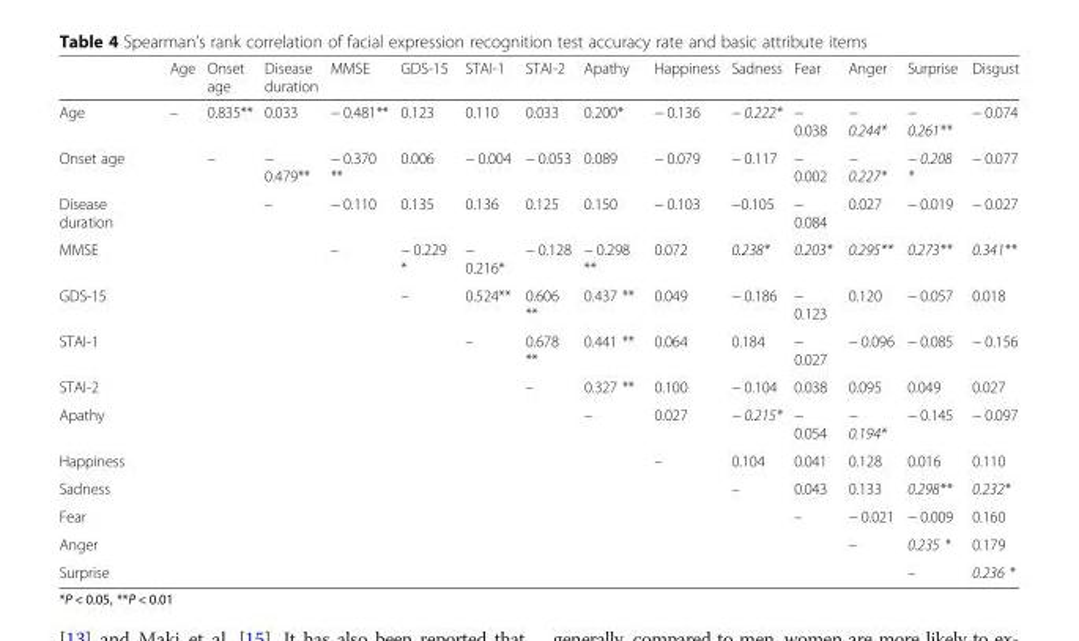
<table><thead><tr><td></td><td>Age</td><td>Onset age</td><td>Disease duration</td><td>MMSE</td><td>GDS-15</td><td>STAI-1</td><td>STAI-2</td><td>Apathy</td><td>Happiness</td><td>Sadness</td><td>Fear</td><td>Anger</td><td>Surprise</td><td>Disgust</td></tr></thead><tbody><tr><td>Age</td><td>–</td><td>0.835**</td><td>0.033</td><td>− 0.481**</td><td>0.123</td><td>0.110</td><td>0.033</td><td>0.200*</td><td>− 0.136</td><td>− 0.222*</td><td>− 0.038</td><td>− 0.244*</td><td>− 0.261**</td><td>− 0.074</td></tr><tr><td>Onset age</td><td></td><td>–</td><td>− 0.479**</td><td>− 0.370 **</td><td>0.006</td><td>− 0.004</td><td>− 0.053</td><td>0.089</td><td>− 0.079</td><td>− 0.117</td><td>− 0.002</td><td>− 0.227*</td><td>− 0.208 *</td><td>− 0.077</td></tr><tr><td>Disease duration</td><td></td><td></td><td>–</td><td>− 0.110</td><td>0.135</td><td>0.136</td><td>0.125</td><td>0.150</td><td>− 0.103</td><td>−0.105</td><td>− 0.084</td><td>0.027</td><td>− 0.019</td><td>− 0.027</td></tr><tr><td>MMSE</td><td></td><td></td><td></td><td>–</td><td>− 0.229 *</td><td>− 0.216*</td><td>− 0.128</td><td>− 0.298 **</td><td>0.072</td><td>0.238*</td><td>0.203*</td><td>0.295**</td><td>0.273**</td><td>0.341**</td></tr><tr><td>GDS-15</td><td></td><td></td><td></td><td></td><td>–</td><td>0.524**</td><td>0.606 **</td><td>0.437 **</td><td>0.049</td><td>− 0.186</td><td>− 0.123</td><td>0.120</td><td>− 0.057</td><td>0.018</td></tr><tr><td>STAI-1</td><td></td><td></td><td></td><td></td><td></td><td>–</td><td>0.678 **</td><td>0.441 **</td><td>0.064</td><td>0.184</td><td>− 0.027</td><td>− 0.096</td><td>− 0.085</td><td>− 0.156</td></tr><tr><td>STAI-2</td><td></td><td></td><td></td><td></td><td></td><td></td><td>–</td><td>0.327 **</td><td>0.100</td><td>− 0.104</td><td>0.038</td><td>0.095</td><td>0.049</td><td>0.027</td></tr><tr><td>Apathy</td><td></td><td></td><td></td><td></td><td></td><td></td><td></td><td>–</td><td>0.027</td><td>− 0.215*</td><td>− 0.054</td><td>− 0.194*</td><td>− 0.145</td><td>− 0.097</td></tr><tr><td>Happiness</td><td></td><td></td><td></td><td></td><td></td><td></td><td></td><td></td><td>–</td><td>0.104</td><td>0.041</td><td>0.128</td><td>0.016</td><td>0.110</td></tr><tr><td>Sadness</td><td></td><td></td><td></td><td></td><td></td><td></td><td></td><td></td><td></td><td>–</td><td>0.043</td><td>0.133</td><td>0.298**</td><td>0.232*</td></tr><tr><td>Fear</td><td></td><td></td><td></td><td></td><td></td><td></td><td></td><td></td><td></td><td></td><td>–</td><td>− 0.021</td><td>− 0.009</td><td>0.160</td></tr><tr><td>Anger</td><td></td><td></td><td></td><td></td><td></td><td></td><td></td><td></td><td></td><td></td><td></td><td>–</td><td>0.235 *</td><td>0.179</td></tr><tr><td>Surprise</td><td></td><td></td><td></td><td></td><td></td><td></td><td></td><td></td><td></td><td></td><td></td><td></td><td>–</td><td>0.236 *</td></tr></tbody></table>